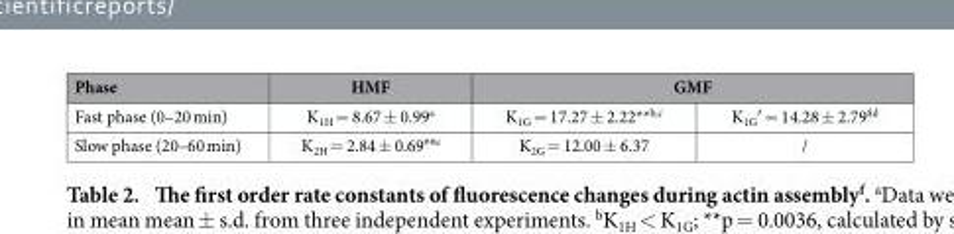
<table><thead><tr><td rowspan="2">Phase Fast phase (0–20 min)</td><td rowspan="2">HMF K<sub>1H</sub> = 8.67 ± 0.99<sup>a</sup></td><td colspan="2">GMF</td></tr><tr><td>K<sub>1G</sub> = 17.27 ± 2.22**<sup>b,c</sup></td><td>K<sub>1G</sub>′ = 14.28 ± 2.79$<sup>d</sup></td></tr></thead><tbody><tr><td>Slow phase (20–60 min)</td><td>K<sub>2H</sub> = 2.84 ± 0.69##<sup>e</sup></td><td>K<sub>2G</sub> = 12.00 ± 6.37</td><td>/</td></tr></tbody></table>